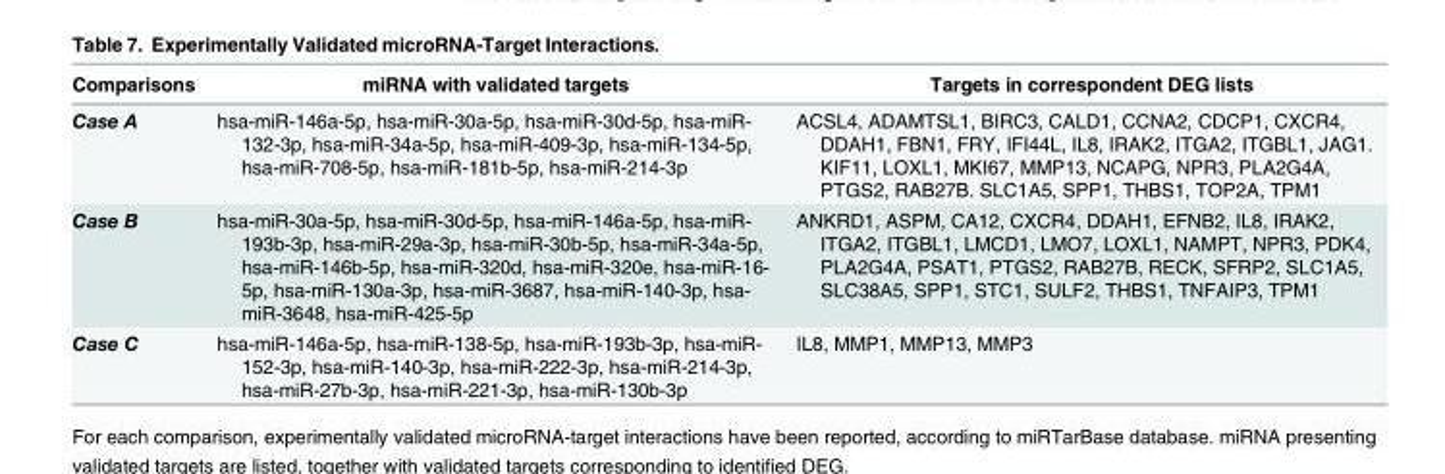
<table><thead><tr><td>Comparisons</td><td>miRNA with validated targets</td><td>Targets in correspondent DEG lists</td></tr></thead><tbody><tr><td>Case A</td><td>hsa-miR-146a-5p, hsa-miR-30a-5p, hsa-miR-30d-5p, hsa-miR- 132-3p, hsa-miR-34a-5p, hsa-miR-409-3p, hsa-miR-134-5p, hsa-miR-708-5p, hsa-miR-181b-5p, hsa-miR-214-3p</td><td>ACSL4, ADAMTSL1, BIRC3, CALD1, CCNA2, CDCP1, CXCR4, DDAH1, FBN1, FRY, IFI44L, IL8, IRAK2, ITGA2, ITGBL1, JAG1. KIF11, LOXL1, MKI67, MMP13, NCAPG, NPR3, PLA2G4A, PTGS2, RAB27B. SLC1A5, SPP1, THBS1, TOP2A, TPM1</td></tr><tr><td>Case B</td><td>hsa-miR-30a-5p, hsa-miR-30d-5p, hsa-miR-146a-5p, hsa-miR- 193b-3p, hsa-miR-29a-3p, hsa-miR-30b-5p, hsa-miR-34a-5p, hsa-miR-146b-5p, hsa-miR-320d, hsa-miR-320e, hsa-miR-16- 5p, hsa-miR-130a-3p, hsa-miR-3687, hsa-miR-140-3p, hsa- miR-3648, hsa-miR-425-5p</td><td>ANKRD1, ASPM, CA12, CXCR4, DDAH1, EFNB2, IL8, IRAK2, ITGA2, ITGBL1, LMCD1, LMO7, LOXL1, NAMPT, NPR3, PDK4, PLA2G4A, PSAT1, PTGS2, RAB27B, RECK, SFRP2, SLC1A5, SLC38A5, SPP1, STC1, SULF2, THBS1, TNFAIP3, TPM1</td></tr><tr><td>Case C</td><td>hsa-miR-146a-5p, hsa-miR-138-5p, hsa-miR-193b-3p, hsa-miR- 152-3p, hsa-miR-140-3p, hsa-miR-222-3p, hsa-miR-214-3p, hsa-miR-27b-3p, hsa-miR-221-3p, hsa-miR-130b-3p</td><td>IL8, MMP1, MMP13, MMP3</td></tr></tbody></table>